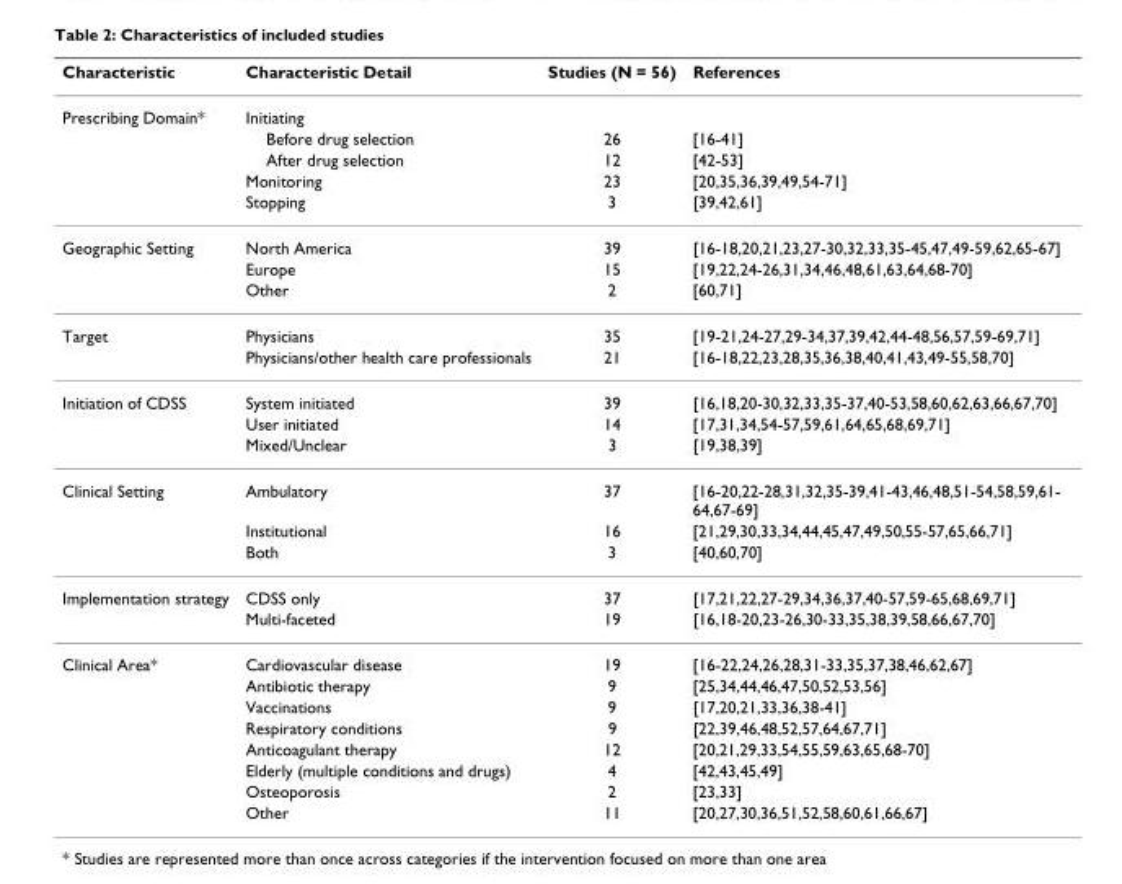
<table><thead><tr><td>Characteristic</td><td>Characteristic Detail</td><td>Studies (N = 56)</td><td>References</td></tr></thead><tbody><tr><td rowspan="5">Prescribing Domain*</td><td>Initiating</td><td></td><td></td></tr><tr><td>Before drug selection</td><td>26</td><td>[16-41]</td></tr><tr><td>After drug selection</td><td>12</td><td>[42-53]</td></tr><tr><td>Monitoring</td><td>23</td><td>[20,35,36,39,49,54-71]</td></tr><tr><td>Stopping</td><td>3</td><td>[39,42,61]</td></tr><tr><td rowspan="3">Geographic Setting</td><td>North America</td><td>39</td><td>[16-18,20,21,23,27-30,32,33,35-45,47,49-59,62,65-67]</td></tr><tr><td>Europe</td><td>15</td><td>[19,22,24-26,31,34,46,48,61,63,64,68-70]</td></tr><tr><td>Other</td><td>2</td><td>[60,71]</td></tr><tr><td rowspan="2">Target</td><td>Physicians</td><td>35</td><td>[19-21,24-27,29-34,37,39,42,44-48,56,57,59-69,71]</td></tr><tr><td>Physicians/other health care professionals</td><td>21</td><td>[16-18,22,23,28,35,36,38,40,41,43,49-55,58,70]</td></tr><tr><td rowspan="3">Initiation of CDSS</td><td>System initiated</td><td>39</td><td>[16,18,20-30,32,33,35-37,40-53,58,60,62,63,66,67,70]</td></tr><tr><td>User initiated</td><td>14</td><td>[17,31,34,54-57,59,61,64,65,68,69,71]</td></tr><tr><td>Mixed/Unclear</td><td>3</td><td>[19,38,39]</td></tr><tr><td rowspan="3">Clinical Setting</td><td>Ambulatory</td><td>37</td><td>[16-20,22-28,31,32,35-39,41-43,46,48,51-54,58,59,61- 64,67-69]</td></tr><tr><td>Institutional</td><td>16</td><td>[21,29,30,33,34,44,45,47,49,50,55-57,65,66,71]</td></tr><tr><td>Both</td><td>3</td><td>[40,60,70]</td></tr><tr><td rowspan="2">Implementation strategy</td><td>CDSS only</td><td>37</td><td>[17,21,22,27-29,34,36,37,40-57,59-65,68,69,71]</td></tr><tr><td>Multi-faceted</td><td>19</td><td>[16,18-20,23-26,30-33,35,38,39,58,66,67,70]</td></tr><tr><td rowspan="8">Clinical Area*</td><td>Cardiovascular disease</td><td>19</td><td>[16-22,24,26,28,31-33,35,37,38,46,62,67]</td></tr><tr><td>Antibiotic therapy</td><td>9</td><td>[25,34,44,46,47,50,52,53,56]</td></tr><tr><td>Vaccinations</td><td>9</td><td>[17,20,21,33,36,38-41]</td></tr><tr><td>Respiratory conditions</td><td>9</td><td>[22,39,46,48,52,57,64,67,71]</td></tr><tr><td>Anticoagulant therapy</td><td>12</td><td>[20,21,29,33,54,55,59,63,65,68-70]</td></tr><tr><td>Elderly (multiple conditions and drugs)</td><td>4</td><td>[42,43,45,49]</td></tr><tr><td>Osteoporosis</td><td>2</td><td>[23,33]</td></tr><tr><td>Other</td><td>11</td><td>[20,27,30,36,51,52,58,60,61,66,67]</td></tr></tbody></table>